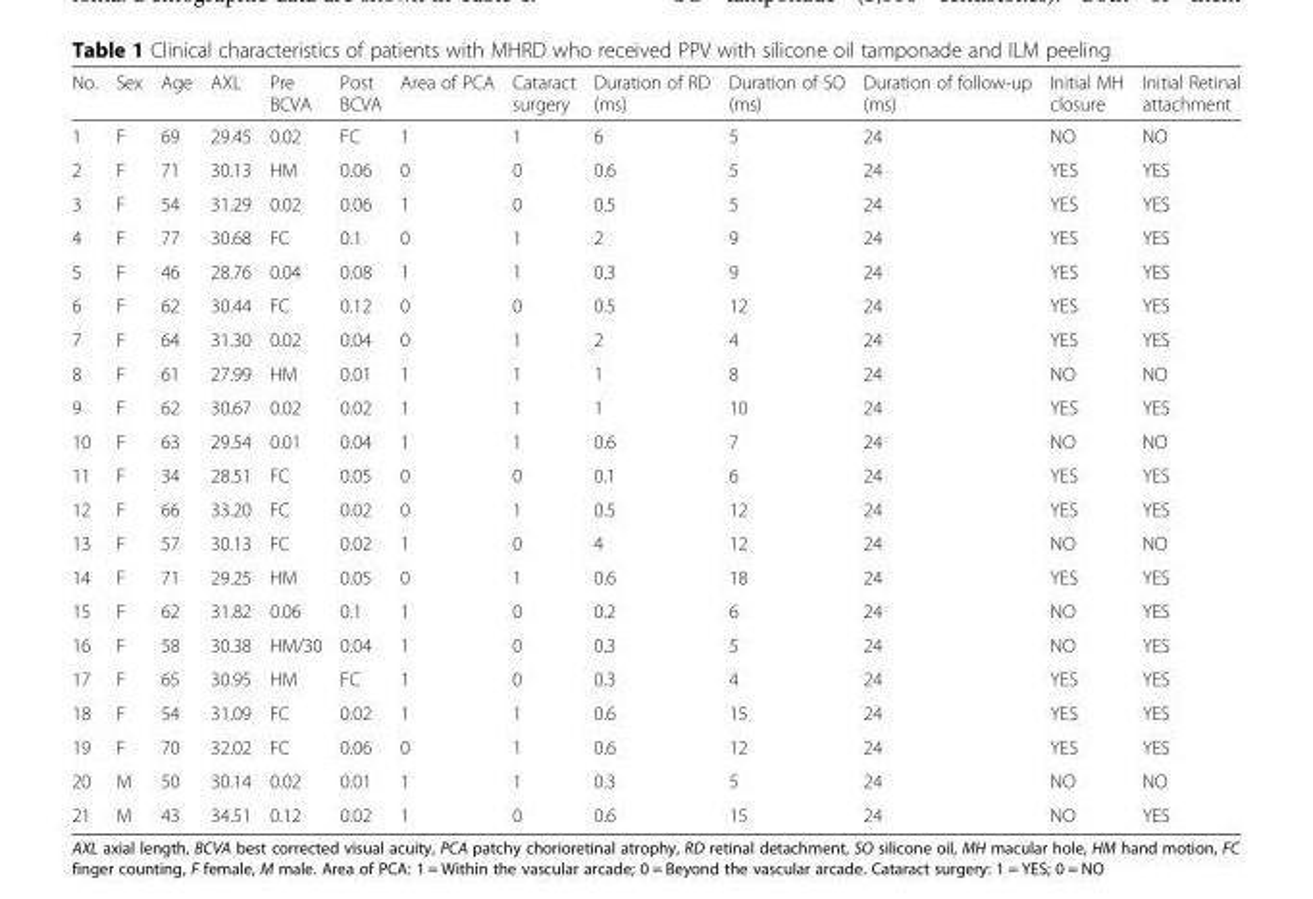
<table><thead><tr><td>No.</td><td>Sex</td><td>Age</td><td>AXL</td><td>Pre BCVA</td><td>Post BCVA</td><td>Area of PCA</td><td>Cataract surgery</td><td>Duration of RD (ms)</td><td>Duration of SO (ms)</td><td>Duration of follow-up (ms)</td><td>Initial MH closure</td><td>Initial Retinal attachment</td></tr></thead><tbody><tr><td>1</td><td>F</td><td>69</td><td>29.45</td><td>0.02</td><td>FC</td><td>1</td><td>1</td><td>6</td><td>5</td><td>24</td><td>NO</td><td>NO</td></tr><tr><td>2</td><td>F</td><td>71</td><td>30.13</td><td>HM</td><td>0.06</td><td>0</td><td>0</td><td>0.6</td><td>5</td><td>24</td><td>YES</td><td>YES</td></tr><tr><td>3</td><td>F</td><td>54</td><td>31.29</td><td>0.02</td><td>0.06</td><td>1</td><td>0</td><td>0.5</td><td>5</td><td>24</td><td>YES</td><td>YES</td></tr><tr><td>4</td><td>F</td><td>77</td><td>30.68</td><td>FC</td><td>0.1</td><td>0</td><td>1</td><td>2</td><td>9</td><td>24</td><td>YES</td><td>YES</td></tr><tr><td>5</td><td>F</td><td>46</td><td>28.76</td><td>0.04</td><td>0.08</td><td>1</td><td>1</td><td>0.3</td><td>9</td><td>24</td><td>YES</td><td>YES</td></tr><tr><td>6</td><td>F</td><td>62</td><td>30.44</td><td>FC</td><td>0.12</td><td>0</td><td>0</td><td>0.5</td><td>12</td><td>24</td><td>YES</td><td>YES</td></tr><tr><td>7</td><td>F</td><td>64</td><td>31.30</td><td>0.02</td><td>0.04</td><td>0</td><td>1</td><td>2</td><td>4</td><td>24</td><td>YES</td><td>YES</td></tr><tr><td>8</td><td>F</td><td>61</td><td>27.99</td><td>HM</td><td>0.01</td><td>1</td><td>1</td><td>1</td><td>8</td><td>24</td><td>NO</td><td>NO</td></tr><tr><td>9</td><td>F</td><td>62</td><td>30.67</td><td>0.02</td><td>0.02</td><td>1</td><td>1</td><td>1</td><td>10</td><td>24</td><td>YES</td><td>YES</td></tr><tr><td>10</td><td>F</td><td>63</td><td>29.54</td><td>0.01</td><td>0.04</td><td>1</td><td>1</td><td>0.6</td><td>7</td><td>24</td><td>NO</td><td>NO</td></tr><tr><td>11</td><td>F</td><td>34</td><td>28.51</td><td>FC</td><td>0.05</td><td>0</td><td>0</td><td>0.1</td><td>6</td><td>24</td><td>YES</td><td>YES</td></tr><tr><td>12</td><td>F</td><td>66</td><td>33.20</td><td>FC</td><td>0.02</td><td>0</td><td>1</td><td>0.5</td><td>12</td><td>24</td><td>YES</td><td>YES</td></tr><tr><td>13</td><td>F</td><td>57</td><td>30.13</td><td>FC</td><td>0.02</td><td>1</td><td>0</td><td>4</td><td>12</td><td>24</td><td>NO</td><td>NO</td></tr><tr><td>14</td><td>F</td><td>71</td><td>29.25</td><td>HM</td><td>0.05</td><td>0</td><td>1</td><td>0.6</td><td>18</td><td>24</td><td>YES</td><td>YES</td></tr><tr><td>15</td><td>F</td><td>62</td><td>31.82</td><td>0.06</td><td>0.1</td><td>1</td><td>0</td><td>0.2</td><td>6</td><td>24</td><td>NO</td><td>YES</td></tr><tr><td>16</td><td>F</td><td>58</td><td>30.38</td><td>HM/30</td><td>0.04</td><td>1</td><td>0</td><td>0.3</td><td>5</td><td>24</td><td>NO</td><td>YES</td></tr><tr><td>17</td><td>F</td><td>65</td><td>30.95</td><td>HM</td><td>FC</td><td>1</td><td>0</td><td>0.3</td><td>4</td><td>24</td><td>YES</td><td>YES</td></tr><tr><td>18</td><td>F</td><td>54</td><td>31.09</td><td>FC</td><td>0.02</td><td>1</td><td>1</td><td>0.6</td><td>15</td><td>24</td><td>YES</td><td>YES</td></tr><tr><td>19</td><td>F</td><td>70</td><td>32.02</td><td>FC</td><td>0.06</td><td>0</td><td>1</td><td>0.6</td><td>12</td><td>24</td><td>YES</td><td>YES</td></tr><tr><td>20</td><td>M</td><td>50</td><td>30.14</td><td>0.02</td><td>0.01</td><td>1</td><td>1</td><td>0.3</td><td>5</td><td>24</td><td>NO</td><td>NO</td></tr><tr><td>21</td><td>M</td><td>43</td><td>34.51</td><td>0.12</td><td>0.02</td><td>1</td><td>0</td><td>0.6</td><td>15</td><td>24</td><td>NO</td><td>YES</td></tr></tbody></table>